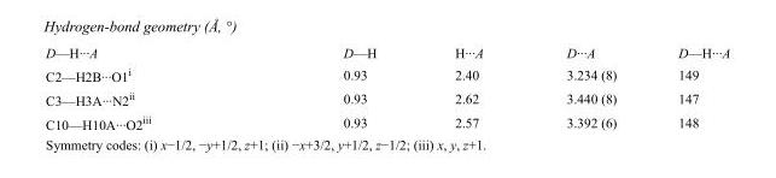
<table><tbody><tr><td>D—H···A</td><td>D—H</td><td>H···A</td><td>D···A</td><td>D—H···A</td></tr><tr><td>C2—H2B···O1<sup>i</sup></td><td>0.93</td><td>2.40</td><td>3.234 (8)</td><td>149</td></tr><tr><td>C3—H3A···N2<sup>ii</sup></td><td>0.93</td><td>2.62</td><td>3.440 (8)</td><td>147</td></tr><tr><td>C10—H10A···O2<sup>iii</sup></td><td>0.93</td><td>2.57</td><td>3.392 (6)</td><td>148</td></tr></tbody></table>